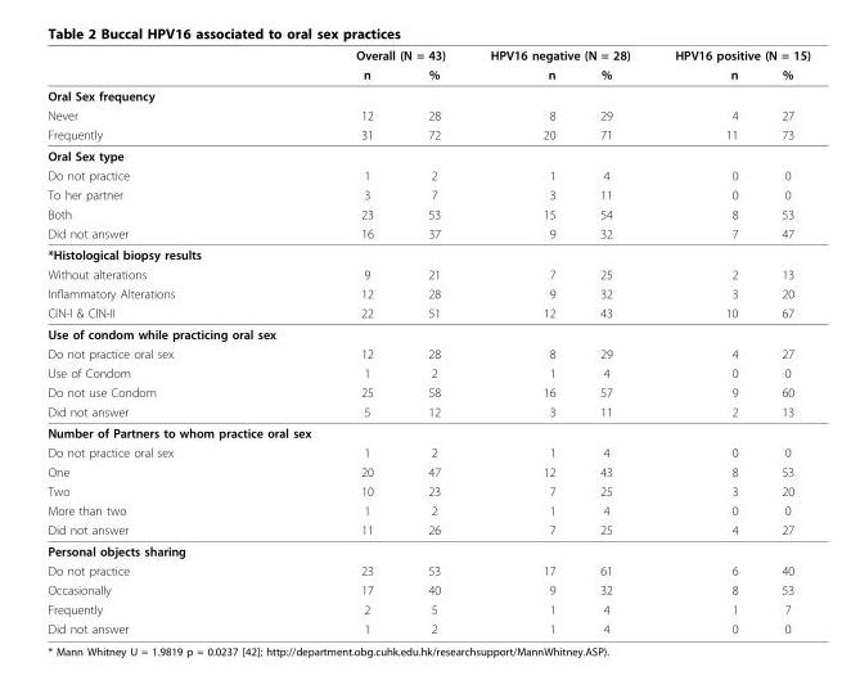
<table><thead><tr><td rowspan="2"></td><td colspan="2">Overall (N = 43)</td><td colspan="2">HPV16 negative (N = 28)</td><td colspan="2">HPV16 positive (N = 15)</td></tr><tr><td>n</td><td>%</td><td>n</td><td>%</td><td>n</td><td>%</td></tr></thead><tbody><tr><td colspan="7">Oral Sex frequency</td></tr><tr><td>Never</td><td>12</td><td>28</td><td>8</td><td>29</td><td>4</td><td>27</td></tr><tr><td>Frequently</td><td>31</td><td>72</td><td>20</td><td>71</td><td>11</td><td>73</td></tr><tr><td colspan="7">Oral Sex type</td></tr><tr><td>Do not practice</td><td>1</td><td>2</td><td>1</td><td>4</td><td>0</td><td>0</td></tr><tr><td>To her partner</td><td>3</td><td>7</td><td>3</td><td>11</td><td>0</td><td>0</td></tr><tr><td>Both</td><td>23</td><td>53</td><td>15</td><td>54</td><td>8</td><td>53</td></tr><tr><td>Did not answer</td><td>16</td><td>37</td><td>9</td><td>32</td><td>7</td><td>47</td></tr><tr><td colspan="7">*Histological biopsy results</td></tr><tr><td>Without alterations</td><td>9</td><td>21</td><td>7</td><td>25</td><td>2</td><td>13</td></tr><tr><td>Inflammatory Alterations</td><td>12</td><td>28</td><td>9</td><td>32</td><td>3</td><td>20</td></tr><tr><td>CIN-I &amp; CIN-II</td><td>22</td><td>51</td><td>12</td><td>43</td><td>10</td><td>67</td></tr><tr><td colspan="7">Use of condom while practicing oral sex</td></tr><tr><td>Do not practice oral sex</td><td>12</td><td>28</td><td>8</td><td>29</td><td>4</td><td>27</td></tr><tr><td>Use of Condom</td><td>1</td><td>2</td><td>1</td><td>4</td><td>0</td><td>0</td></tr><tr><td>Do not use Condom</td><td>25</td><td>58</td><td>16</td><td>57</td><td>9</td><td>60</td></tr><tr><td>Did not answer</td><td>5</td><td>12</td><td>3</td><td>11</td><td>2</td><td>13</td></tr><tr><td colspan="7">Number of Partners to whom practice oral sex</td></tr><tr><td>Do not practice oral sex</td><td>1</td><td>2</td><td>1</td><td>4</td><td>0</td><td>0</td></tr><tr><td>One</td><td>20</td><td>47</td><td>12</td><td>43</td><td>8</td><td>53</td></tr><tr><td>Two</td><td>10</td><td>23</td><td>7</td><td>25</td><td>3</td><td>20</td></tr><tr><td>More than two</td><td>1</td><td>2</td><td>1</td><td>4</td><td>0</td><td>0</td></tr><tr><td>Did not answer</td><td>11</td><td>26</td><td>7</td><td>25</td><td>4</td><td>27</td></tr><tr><td colspan="7">Personal objects sharing</td></tr><tr><td>Do not practice</td><td>23</td><td>53</td><td>17</td><td>61</td><td>6</td><td>40</td></tr><tr><td>Occasionally</td><td>17</td><td>40</td><td>9</td><td>32</td><td>8</td><td>53</td></tr><tr><td>Frequently</td><td>2</td><td>5</td><td>1</td><td>4</td><td>1</td><td>7</td></tr><tr><td>Did not answer</td><td>1</td><td>2</td><td>1</td><td>4</td><td>0</td><td>0</td></tr></tbody></table>